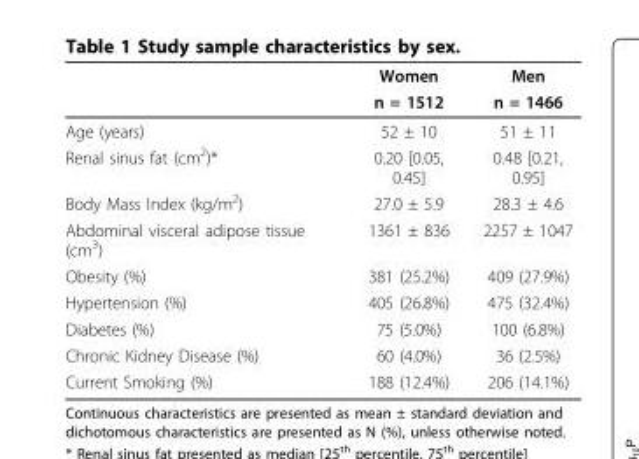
<table><thead><tr><td rowspan="2"></td><td rowspan="2">Women n = 1512</td><td rowspan="2">Men n = 1466</td></tr><tr></tr></thead><tbody><tr><td>Age (years)</td><td>52 ± 10</td><td>51 ± 11</td></tr><tr><td>Renal sinus fat (cm<sup>2</sup>)*</td><td>0.20 [0.05, 0.45]</td><td>0.48 [0.21, 0.95]</td></tr><tr><td>Body Mass Index (kg/m<sup>2</sup>)</td><td>27.0 ± 5.9</td><td>28.3 ± 4.6</td></tr><tr><td>Abdominal visceral adipose tissue (cm<sup>3</sup>)</td><td>1361 ± 836</td><td>2257 ± 1047</td></tr><tr><td>Obesity (%)</td><td>381 (25.2%)</td><td>409 (27.9%)</td></tr><tr><td>Hypertension (%)</td><td>405 (26.8%)</td><td>475 (32.4%)</td></tr><tr><td>Diabetes (%)</td><td>75 (5.0%)</td><td>100 (6.8%)</td></tr><tr><td>Chronic Kidney Disease (%)</td><td>60 (4.0%)</td><td>36 (2.5%)</td></tr><tr><td>Current Smoking (%)</td><td>188 (12.4%)</td><td>206 (14.1%)</td></tr></tbody></table>